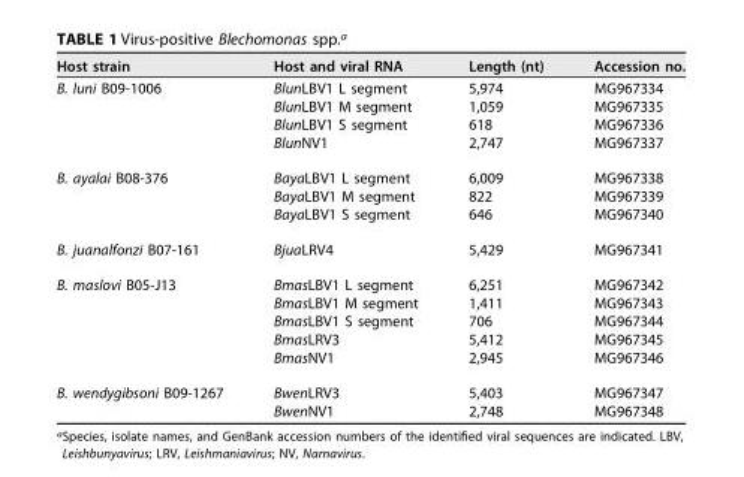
<table><thead><tr><td>Host strain</td><td>Host and viral RNA</td><td>Length (nt)</td><td>Accession no.</td></tr></thead><tbody><tr><td rowspan="4">B. luni B09-1006</td><td>BlunLBV1 L segment</td><td>5,974</td><td>MG967334</td></tr><tr><td>BlunLBV1 M segment</td><td>1,059</td><td>MG967335</td></tr><tr><td>BlunLBV1 S segment</td><td>618</td><td>MG967336</td></tr><tr><td>BlunNV1</td><td>2,747</td><td>MG967337</td></tr><tr><td rowspan="3">B. ayalai B08-376</td><td>BayaLBV1 L segment</td><td>6,009</td><td>MG967338</td></tr><tr><td>BayaLBV1 M segment</td><td>822</td><td>MG967339</td></tr><tr><td>BayaLBV1 S segment</td><td>646</td><td>MG967340</td></tr><tr><td>B. juanalfonzi B07-161</td><td>BjuaLRV4</td><td>5,429</td><td>MG967341</td></tr><tr><td rowspan="5">B. maslovi B05-J13</td><td>BmasLBV1 L segment</td><td>6,251</td><td>MG967342</td></tr><tr><td>BmasLBV1 M segment</td><td>1,411</td><td>MG967343</td></tr><tr><td>BmasLBV1 S segment</td><td>706</td><td>MG967344</td></tr><tr><td>BmasLRV3</td><td>5,412</td><td>MG967345</td></tr><tr><td>BmasNV1</td><td>2,945</td><td>MG967346</td></tr><tr><td rowspan="2">B. wendygibsoni B09-1267</td><td>BwenLRV3</td><td>5,403</td><td>MG967347</td></tr><tr><td>BwenNV1</td><td>2,748</td><td>MG967348</td></tr></tbody></table>